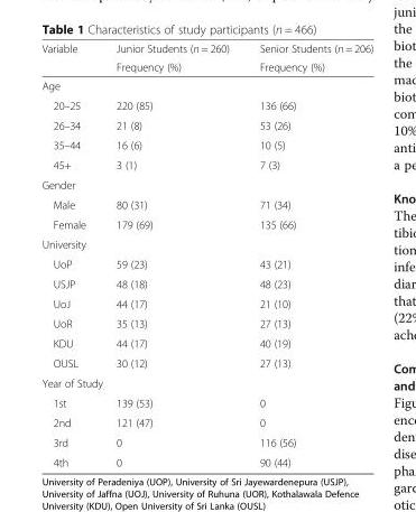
<table><thead><tr><td rowspan="2">Variable</td><td rowspan="2">Junior Students (n = 260) Frequency (%)</td><td rowspan="2">Senior Students (n = 206) Frequency (%)</td></tr><tr></tr></thead><tbody><tr><td colspan="3">Age</td></tr><tr><td>20–25</td><td>220 (85)</td><td>136 (66)</td></tr><tr><td>26–34</td><td>21 (8)</td><td>53 (26)</td></tr><tr><td>35–44</td><td>16 (6)</td><td>10 (5)</td></tr><tr><td>45+</td><td>3 (1)</td><td>7 (3)</td></tr><tr><td colspan="3">Gender</td></tr><tr><td>Male</td><td>80 (31)</td><td>71 (34)</td></tr><tr><td>Female</td><td>179 (69)</td><td>135 (66)</td></tr><tr><td colspan="3">University</td></tr><tr><td>UoP</td><td>59 (23)</td><td>43 (21)</td></tr><tr><td>USJP</td><td>48 (18)</td><td>48 (23)</td></tr><tr><td>UoJ</td><td>44 (17)</td><td>21 (10)</td></tr><tr><td>UoR</td><td>35 (13)</td><td>27 (13)</td></tr><tr><td>KDU</td><td>44 (17)</td><td>40 (19)</td></tr><tr><td>OUSL</td><td>30 (12)</td><td>27 (13)</td></tr><tr><td colspan="3">Year of Study</td></tr><tr><td>1st</td><td>139 (53)</td><td>0</td></tr><tr><td>2nd</td><td>121 (47)</td><td>0</td></tr><tr><td>3rd</td><td>0</td><td>116 (56)</td></tr><tr><td>4th</td><td>0</td><td>90 (44)</td></tr></tbody></table>